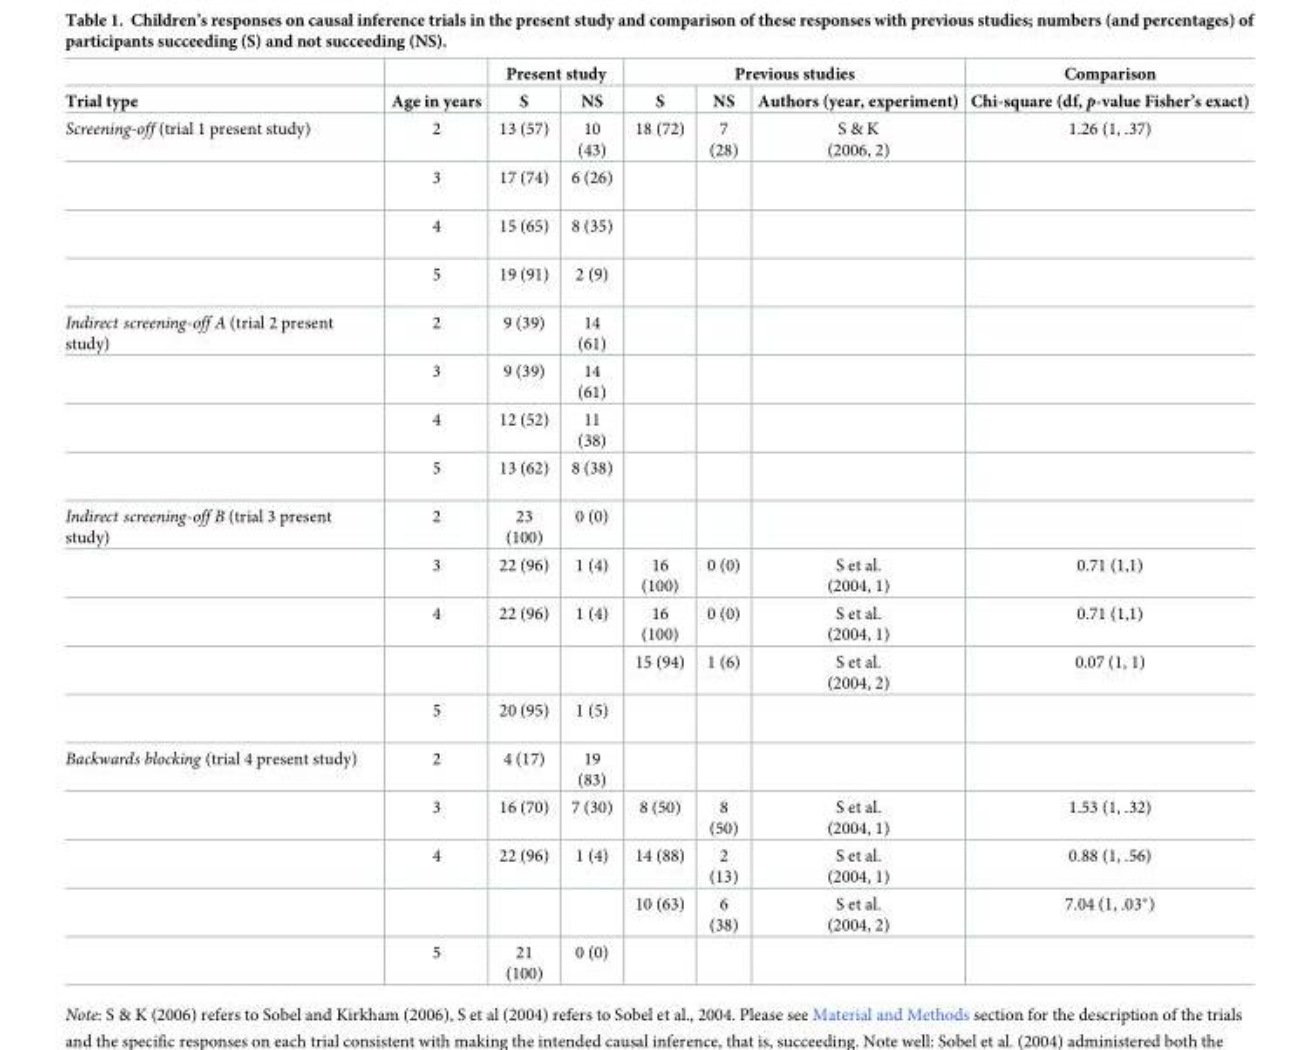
<table><thead><tr><td rowspan="2">Trial type</td><td rowspan="2">Age in years</td><td colspan="2">Present study</td><td colspan="3">Previous studies</td><td rowspan="2">Comparison Chi-square (df, p-value Fisher’s exact)</td></tr><tr><td>S</td><td>NS</td><td>S</td><td>NS</td><td>Authors (year, experiment)</td></tr></thead><tbody><tr><td rowspan="4">Screening-off (trial 1 present study)</td><td>2</td><td>13 (57)</td><td>10 (43)</td><td>18 (72)</td><td>7 (28)</td><td>S &amp; K (2006, 2)</td><td>1.26 (1, .37)</td></tr><tr><td>3</td><td>17 (74)</td><td>6 (26)</td><td></td><td></td><td></td><td></td></tr><tr><td>4</td><td>15 (65)</td><td>8 (35)</td><td></td><td></td><td></td><td></td></tr><tr><td>5</td><td>19 (91)</td><td>2 (9)</td><td></td><td></td><td></td><td></td></tr><tr><td rowspan="4">Indirect screening-off A (trial 2 present study)</td><td>2</td><td>9 (39)</td><td>14 (61)</td><td></td><td></td><td></td><td></td></tr><tr><td>3</td><td>9 (39)</td><td>14 (61)</td><td></td><td></td><td></td><td></td></tr><tr><td>4</td><td>12 (52)</td><td>11 (38)</td><td></td><td></td><td></td><td></td></tr><tr><td>5</td><td>13 (62)</td><td>8 (38)</td><td></td><td></td><td></td><td></td></tr><tr><td rowspan="5">Indirect screening-off B (trial 3 present study)</td><td>2</td><td>23 (100)</td><td>0 (0)</td><td></td><td></td><td></td><td></td></tr><tr><td>3</td><td>22 (96)</td><td>1 (4)</td><td>16 (100)</td><td>0 (0)</td><td>S et al. (2004, 1)</td><td>0.71 (1,1)</td></tr><tr><td>4</td><td>22 (96)</td><td>1 (4)</td><td>16 (100)</td><td>0 (0)</td><td>S et al. (2004, 1)</td><td>0.71 (1,1)</td></tr><tr><td></td><td></td><td></td><td>15 (94)</td><td>1 (6)</td><td>S et al. (2004, 2)</td><td>0.07 (1, 1)</td></tr><tr><td>5</td><td>20 (95)</td><td>1 (5)</td><td></td><td></td><td></td><td></td></tr><tr><td rowspan="5">Backwards blocking (trial 4 present study)</td><td>2</td><td>4 (17)</td><td>19 (83)</td><td></td><td></td><td></td><td></td></tr><tr><td>3</td><td>16 (70)</td><td>7 (30)</td><td>8 (50)</td><td>8 (50)</td><td>S et al. (2004, 1)</td><td>1.53 (1, .32)</td></tr><tr><td>4</td><td>22 (96)</td><td>1 (4)</td><td>14 (88)</td><td>2 (13)</td><td>S et al. (2004, 1)</td><td>0.88 (1, .56)</td></tr><tr><td></td><td></td><td></td><td>10 (63)</td><td>6 (38)</td><td>S et al. (2004, 2)</td><td>7.04 (1, .03*)</td></tr><tr><td>5</td><td>21 (100)</td><td>0 (0)</td><td></td><td></td><td></td><td></td></tr></tbody></table>